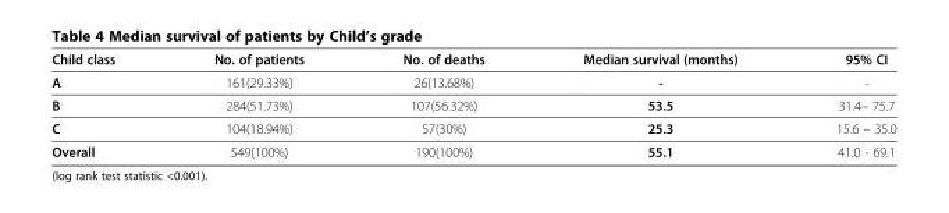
<table><thead><tr><td>Child class</td><td>No. of patients</td><td>No. of deaths</td><td>Median survival (months)</td><td>95% CI</td></tr></thead><tbody><tr><td>A</td><td>161(29.33%)</td><td>26(13.68%)</td><td>-</td><td>-</td></tr><tr><td>B</td><td>284(51.73%)</td><td>107(56.32%)</td><td>53.5</td><td>31.4– 75.7</td></tr><tr><td>C</td><td>104(18.94%)</td><td>57(30%)</td><td>25.3</td><td>15.6 – 35.0</td></tr><tr><td>Overall</td><td>549(100%)</td><td>190(100%)</td><td>55.1</td><td>41.0 - 69.1</td></tr></tbody></table>